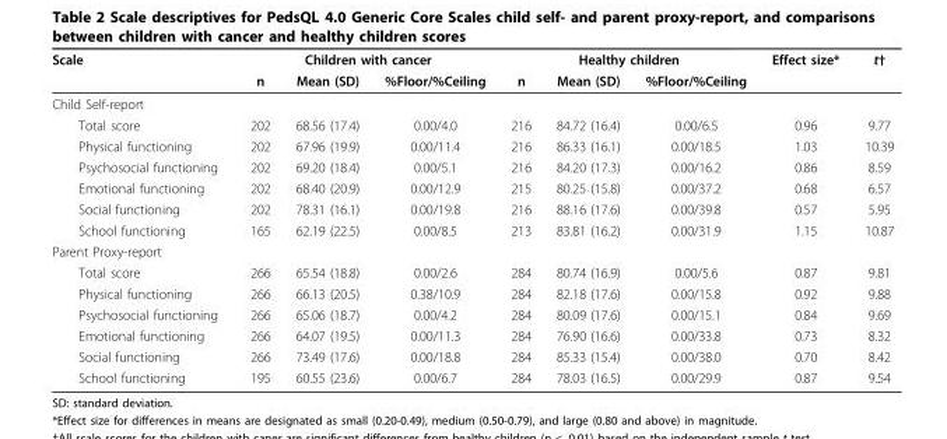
<table><thead><tr><td rowspan="2">Scale</td><td colspan="3">Children with cancer</td><td colspan="3">Healthy children</td><td rowspan="2">Effect size*</td><td rowspan="2">t†</td></tr><tr><td>n</td><td>Mean (SD)</td><td>%Floor/%Ceiling</td><td>n</td><td>Mean (SD)</td><td>%Floor/%Ceiling</td></tr></thead><tbody><tr><td colspan="9">Child Self-report</td></tr><tr><td>Total score</td><td>202</td><td>68.56 (17.4)</td><td>0.00/4.0</td><td>216</td><td>84.72 (16.4)</td><td>0.00/6.5</td><td>0.96</td><td>9.77</td></tr><tr><td>Physical functioning</td><td>202</td><td>67.96 (19.9)</td><td>0.00/11.4</td><td>216</td><td>86.33 (16.1)</td><td>0.00/18.5</td><td>1.03</td><td>10.39</td></tr><tr><td>Psychosocial functioning</td><td>202</td><td>69.20 (18.4)</td><td>0.00/5.1</td><td>216</td><td>84.20 (17.3)</td><td>0.00/16.2</td><td>0.86</td><td>8.59</td></tr><tr><td>Emotional functioning</td><td>202</td><td>68.40 (20.9)</td><td>0.00/12.9</td><td>215</td><td>80.25 (15.8)</td><td>0.00/37.2</td><td>0.68</td><td>6.57</td></tr><tr><td>Social functioning</td><td>202</td><td>78.31 (16.1)</td><td>0.00/19.8</td><td>216</td><td>88.16 (17.6)</td><td>0.00/39.8</td><td>0.57</td><td>5.95</td></tr><tr><td>School functioning</td><td>165</td><td>62.19 (22.5)</td><td>0.00/8.5</td><td>213</td><td>83.81 (16.2)</td><td>0.00/31.9</td><td>1.15</td><td>10.87</td></tr><tr><td colspan="9">Parent Proxy-report</td></tr><tr><td>Total score</td><td>266</td><td>65.54 (18.8)</td><td>0.00/2.6</td><td>284</td><td>80.74 (16.9)</td><td>0.00/5.6</td><td>0.87</td><td>9.81</td></tr><tr><td>Physical functioning</td><td>266</td><td>66.13 (20.5)</td><td>0.38/10.9</td><td>284</td><td>82.18 (17.6)</td><td>0.00/15.8</td><td>0.92</td><td>9.88</td></tr><tr><td>Psychosocial functioning</td><td>266</td><td>65.06 (18.7)</td><td>0.00/4.2</td><td>284</td><td>80.09 (17.6)</td><td>0.00/15.1</td><td>0.84</td><td>9.69</td></tr><tr><td>Emotional functioning</td><td>266</td><td>64.07 (19.5)</td><td>0.00/11.3</td><td>284</td><td>76.90 (16.6)</td><td>0.00/33.8</td><td>0.73</td><td>8.32</td></tr><tr><td>Social functioning</td><td>266</td><td>73.49 (17.6)</td><td>0.00/18.8</td><td>284</td><td>85.33 (15.4)</td><td>0.00/38.0</td><td>0.70</td><td>8.42</td></tr><tr><td>School functioning</td><td>195</td><td>60.55 (23.6)</td><td>0.00/6.7</td><td>284</td><td>78.03 (16.5)</td><td>0.00/29.9</td><td>0.87</td><td>9.54</td></tr></tbody></table>